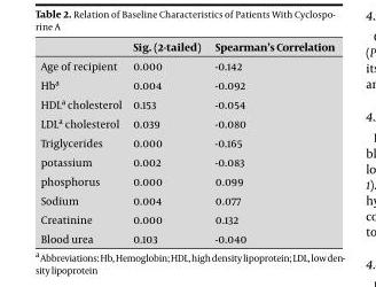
<table><thead><tr><td></td><td>Sig. (2-tailed)</td><td>Spearman’s Correlation</td></tr></thead><tbody><tr><td>Age of recipient</td><td>0.000</td><td>-0.142</td></tr><tr><td>Hba</td><td>0.004</td><td>-0.092</td></tr><tr><td>HDLa cholesterol</td><td>0.153</td><td>-0.054</td></tr><tr><td>LDLa cholesterol</td><td>0.039</td><td>-0.080</td></tr><tr><td>Triglycerides</td><td>0.000</td><td>-0.165</td></tr><tr><td>potassium</td><td>0.002</td><td>-0.083</td></tr><tr><td>phosphorus</td><td>0.000</td><td>0.099</td></tr><tr><td>Sodium</td><td>0.004</td><td>0.077</td></tr><tr><td>Creatinine</td><td>0.000</td><td>0.132</td></tr><tr><td>Blood urea</td><td>0.103</td><td>-0.040</td></tr></tbody></table>